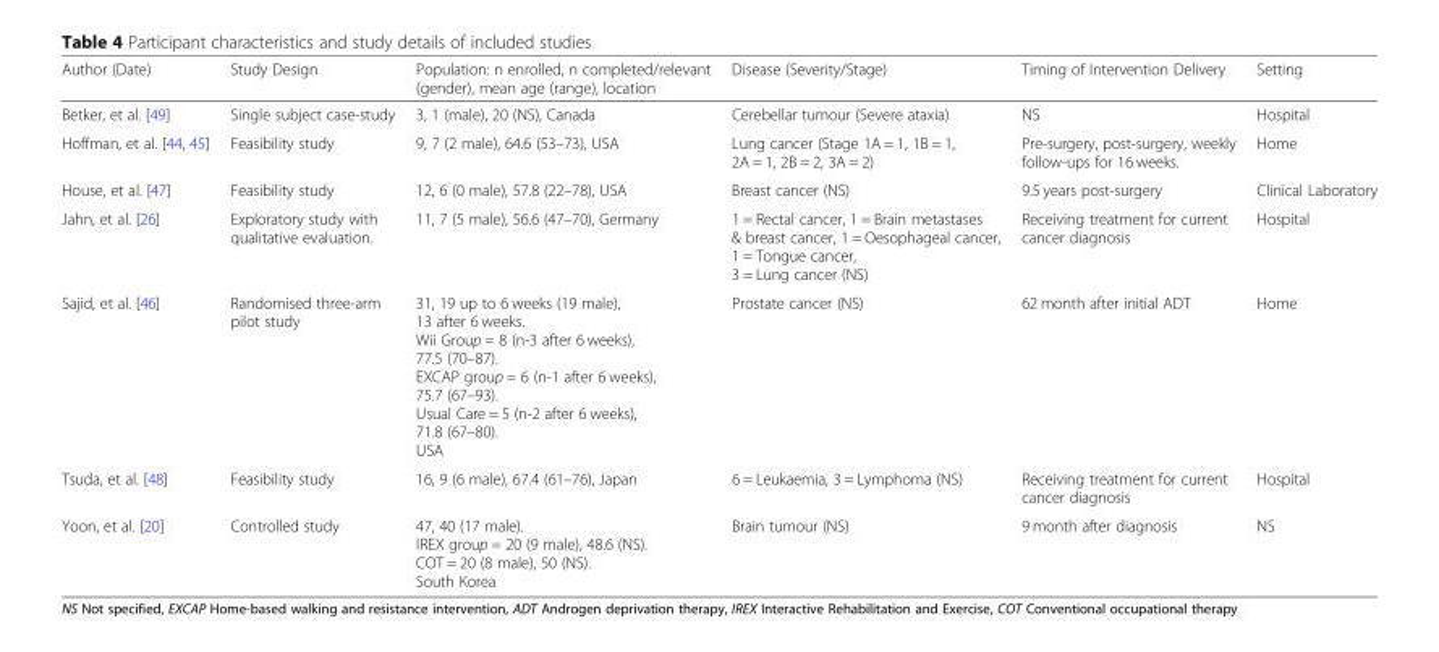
<table><thead><tr><td>Author (Date)</td><td>Study Design</td><td>Population: n enrolled, n completed/relevant (gender), mean age (range), location</td><td>Disease (Severity/Stage)</td><td>Timing of Intervention Delivery</td><td>Setting</td></tr></thead><tbody><tr><td>Betker, et al. [49]</td><td>Single subject case-study</td><td>3, 1 (male), 20 (NS), Canada</td><td>Cerebellar tumour (Severe ataxia)</td><td>NS</td><td>Hospital</td></tr><tr><td>Hoffman, et al. [44, 45]</td><td>Feasibility study</td><td>9, 7 (2 male), 64.6 (53–73), USA</td><td>Lung cancer (Stage 1A = 1, 1B = 1, 2A = 1, 2B = 2, 3A = 2)</td><td>Pre-surgery, post-surgery, weekly follow-ups for 16 weeks.</td><td>Home</td></tr><tr><td>House, et al. [47]</td><td>Feasibility study</td><td>12, 6 (0 male), 57.8 (22–78), USA</td><td>Breast cancer (NS)</td><td>9.5 years post-surgery</td><td>Clinical Laboratory</td></tr><tr><td>Jahn, et al. [26]</td><td>Exploratory study with qualitative evaluation.</td><td>11, 7 (5 male), 56.6 (47–70), Germany</td><td>1 = Rectal cancer, 1 = Brain metastases &amp; breast cancer, 1 = Oesophageal cancer, 1 = Tongue cancer, 3 = Lung cancer (NS)</td><td>Receiving treatment for current cancer diagnosis</td><td>Hospital</td></tr><tr><td>Sajid, et al. [46]</td><td>Randomised three-arm pilot study</td><td>31, 19 up to 6 weeks (19 male), 13 after 6 weeks. Wii Group = 8 (n-3 after 6 weeks), 77.5 (70–87). EXCAP group = 6 (n-1 after 6 weeks), 75.7 (67–93). Usual Care = 5 (n-2 after 6 weeks), 71.8 (67–80). USA</td><td>Prostate cancer (NS)</td><td>62 month after initial ADT</td><td>Home</td></tr><tr><td>Tsuda, et al. [48]</td><td>Feasibility study</td><td>16, 9 (6 male), 67.4 (61–76), Japan</td><td>6 = Leukaemia, 3 = Lymphoma (NS)</td><td>Receiving treatment for current cancer diagnosis</td><td>Hospital</td></tr><tr><td>Yoon, et al. [20]</td><td>Controlled study</td><td>47, 40 (17 male). IREX group = 20 (9 male), 48.6 (NS). COT = 20 (8 male), 50 (NS). South Korea</td><td>Brain tumour (NS)</td><td>9 month after diagnosis</td><td>NS</td></tr></tbody></table>